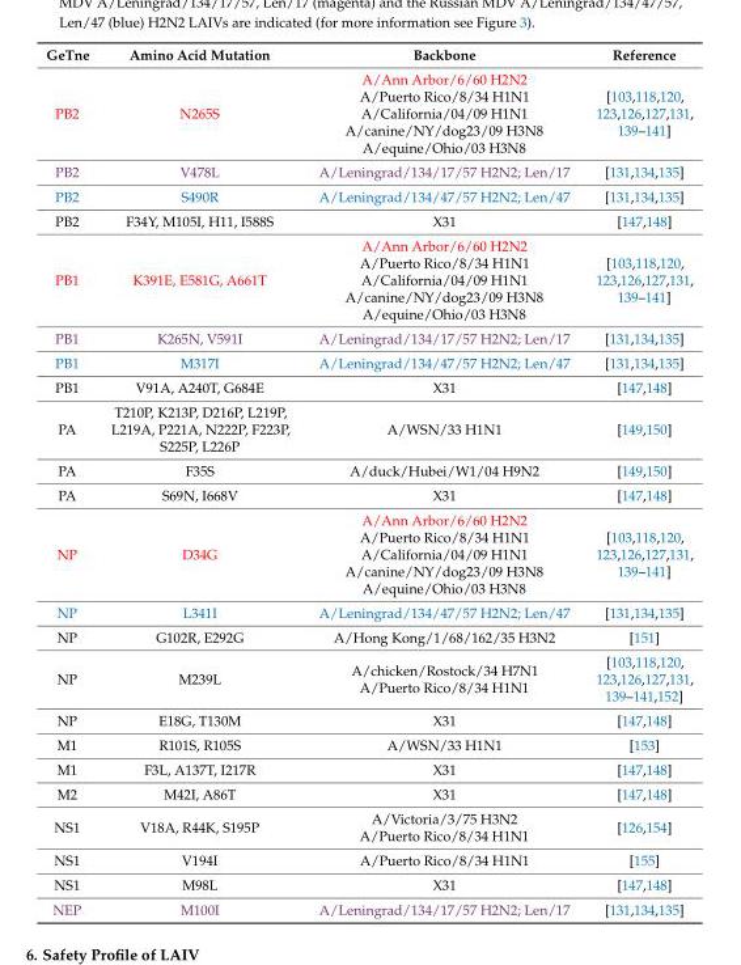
<table><thead><tr><td>GeTne</td><td>Amino Acid Mutation</td><td>Backbone</td><td>Reference</td></tr></thead><tbody><tr><td>PB2</td><td>N265S</td><td>A/Ann Arbor/6/60 H2N2 A/Puerto Rico/8/34 H1N1 A/California/04/09 H1N1 A/canine/NY/dog23/09 H3N8 A/equine/Ohio/03 H3N8</td><td>[103,118,120, 123,126,127,131, 139–141]</td></tr><tr><td>PB2</td><td>V478L</td><td>A/Leningrad/134/17/57 H2N2; Len/17</td><td>[131,134,135]</td></tr><tr><td>PB2</td><td>S490R</td><td>A/Leningrad/134/47/57 H2N2; Len/47</td><td>[131,134,135]</td></tr><tr><td>PB2</td><td>F34Y, M105I, H11, I588S</td><td>X31</td><td>[147,148]</td></tr><tr><td>PB1</td><td>K391E, E581G, A661T</td><td>A/Ann Arbor/6/60 H2N2 A/Puerto Rico/8/34 H1N1 A/California/04/09 H1N1 A/canine/NY/dog23/09 H3N8 A/equine/Ohio/03 H3N8</td><td>[103,118,120, 123,126,127,131, 139–141]</td></tr><tr><td>PB1</td><td>K265N, V591I</td><td>A/Leningrad/134/17/57 H2N2; Len/17</td><td>[131,134,135]</td></tr><tr><td>PB1</td><td>M317I</td><td>A/Leningrad/134/47/57 H2N2; Len/47</td><td>[131,134,135]</td></tr><tr><td>PB1</td><td>V91A, A240T, G684E</td><td>X31</td><td>[147,148]</td></tr><tr><td>PA</td><td>T210P, K213P, D216P, L219P, L219A, P221A, N222P, F223P, S225P, L226P</td><td>A/WSN/33 H1N1</td><td>[149,150]</td></tr><tr><td>PA</td><td>F35S</td><td>A/duck/Hubei/W1/04 H9N2</td><td>[149,150]</td></tr><tr><td>PA</td><td>S69N, I668V</td><td>X31</td><td>[147,148]</td></tr><tr><td>NP</td><td>D34G</td><td>A/Ann Arbor/6/60 H2N2 A/Puerto Rico/8/34 H1N1 A/California/04/09 H1N1 A/canine/NY/dog23/09 H3N8 A/equine/Ohio/03 H3N8</td><td>[103,118,120, 123,126,127,131, 139–141]</td></tr><tr><td>NP</td><td>L341I</td><td>A/Leningrad/134/47/57 H2N2; Len/47</td><td>[131,134,135]</td></tr><tr><td>NP</td><td>G102R, E292G</td><td>A/Hong Kong/1/68/162/35 H3N2</td><td>[151]</td></tr><tr><td>NP</td><td>M239L</td><td>A/chicken/Rostock/34 H7N1 A/Puerto Rico/8/34 H1N1</td><td>[103,118,120, 123,126,127,131, 139–141,152]</td></tr><tr><td>NP</td><td>E18G, T130M</td><td>X31</td><td>[147,148]</td></tr><tr><td>M1</td><td>R101S, R105S</td><td>A/WSN/33 H1N1</td><td>[153]</td></tr><tr><td>M1</td><td>F3L, A137T, I217R</td><td>X31</td><td>[147,148]</td></tr><tr><td>M2</td><td>M42I, A86T</td><td>X31</td><td>[147,148]</td></tr><tr><td>NS1</td><td>V18A, R44K, S195P</td><td>A/Victoria/3/75 H3N2 A/Puerto Rico/8/34 H1N1</td><td>[126,154]</td></tr><tr><td>NS1</td><td>V194I</td><td>A/Puerto Rico/8/34 H1N1</td><td>[155]</td></tr><tr><td>NS1</td><td>M98L</td><td>X31</td><td>[147,148]</td></tr><tr><td>NEP</td><td>M100I</td><td>A/Leningrad/134/17/57 H2N2; Len/17</td><td>[131,134,135]</td></tr></tbody></table>